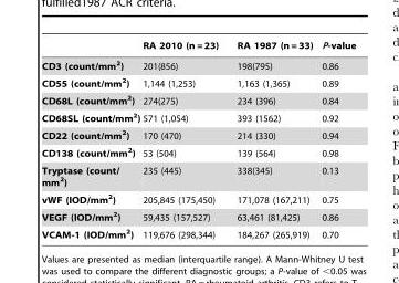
<table><thead><tr><td></td><td>RA 2010 (n = 23)</td><td>RA 1987 (n = 33)</td><td>P-value</td></tr></thead><tbody><tr><td>CD3 (count/mm<sup>2</sup>)</td><td>201(856)</td><td>198(795)</td><td>0.86</td></tr><tr><td>CD55 (count/mm<sup>2</sup>)</td><td>1,144 (1,253)</td><td>1,163 (1,365)</td><td>0.89</td></tr><tr><td>CD68L (count/mm<sup>2</sup>)</td><td>274(275)</td><td>234 (396)</td><td>0.84</td></tr><tr><td>CD68SL (count/mm<sup>2</sup>)</td><td>571 (1,054)</td><td>393 (1562)</td><td>0.92</td></tr><tr><td>CD22 (count/mm<sup>2</sup>)</td><td>170 (470)</td><td>214 (330)</td><td>0.94</td></tr><tr><td>CD138 (count/mm<sup>2</sup>)</td><td>53 (504)</td><td>139 (564)</td><td>0.98</td></tr><tr><td>Tryptase (count/ mm<sup>2</sup>)</td><td>235 (445)</td><td>338(345)</td><td>0.13</td></tr><tr><td>vWF (IOD/mm<sup>2</sup>)</td><td>205,845 (175,450)</td><td>171,078 (167,211)</td><td>0.75</td></tr><tr><td>VEGF (IOD/mm<sup>2</sup>)</td><td>59,435 (157,527)</td><td>63,461 (81,425)</td><td>0.86</td></tr><tr><td>VCAM-1 (IOD/mm<sup>2</sup>)</td><td>119,676 (298,344)</td><td>184,267 (265,919)</td><td>0.70</td></tr></tbody></table>